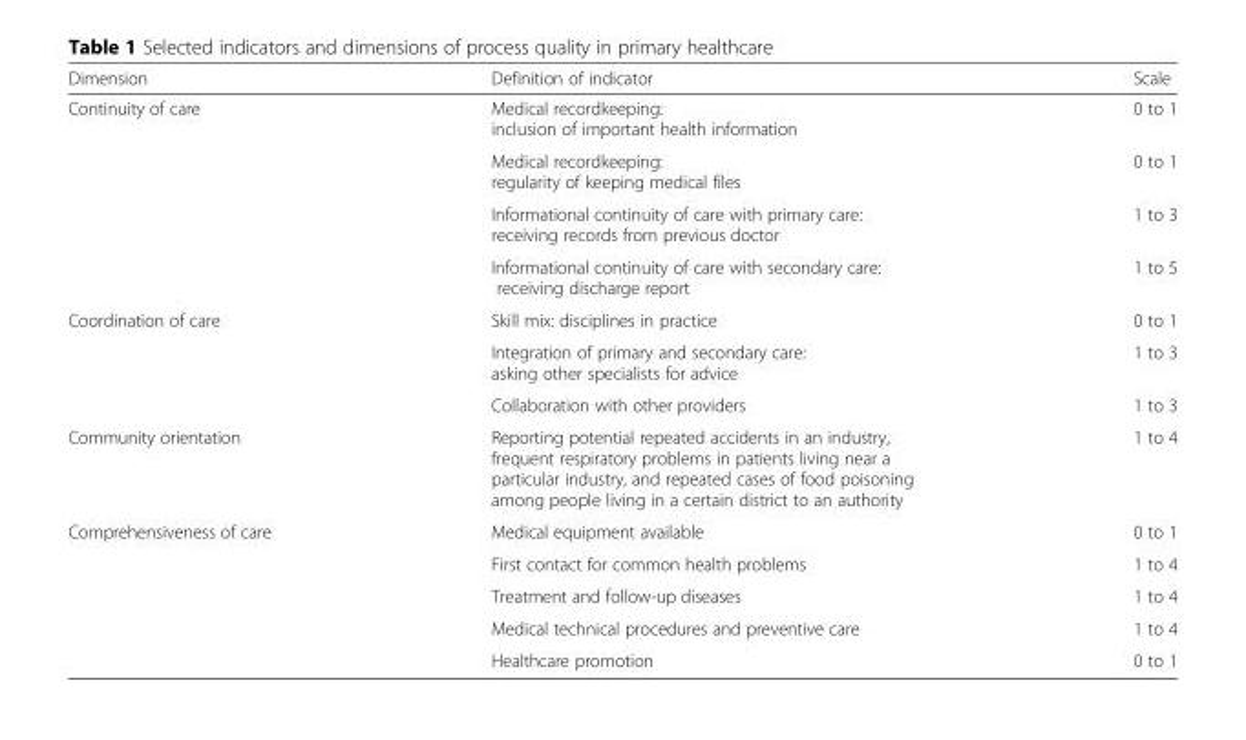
<table><thead><tr><td>Dimension</td><td>Definition of indicator</td><td>Scale</td></tr></thead><tbody><tr><td rowspan="4">Continuity of care</td><td>Medical recordkeeping: inclusion of important health information</td><td>0 to 1</td></tr><tr><td>Medical recordkeeping: regularity of keeping medical files</td><td>0 to 1</td></tr><tr><td>Informational continuity of care with primary care: receiving records from previous doctor</td><td>1 to 3</td></tr><tr><td>Informational continuity of care with secondary care: receiving discharge report</td><td>1 to 5</td></tr><tr><td rowspan="3">Coordination of care</td><td>Skill mix: disciplines in practice</td><td>0 to 1</td></tr><tr><td>Integration of primary and secondary care: asking other specialists for advice</td><td>1 to 3</td></tr><tr><td>Collaboration with other providers</td><td>1 to 3</td></tr><tr><td>Community orientation</td><td>Reporting potential repeated accidents in an industry, frequent respiratory problems in patients living near a particular industry, and repeated cases of food poisoning among people living in a certain district to an authority</td><td>1 to 4</td></tr><tr><td rowspan="5">Comprehensiveness of care</td><td>Medical equipment available</td><td>0 to 1</td></tr><tr><td>First contact for common health problems</td><td>1 to 4</td></tr><tr><td>Treatment and follow-up diseases</td><td>1 to 4</td></tr><tr><td>Medical technical procedures and preventive care</td><td>1 to 4</td></tr><tr><td>Healthcare promotion</td><td>0 to 1</td></tr></tbody></table>